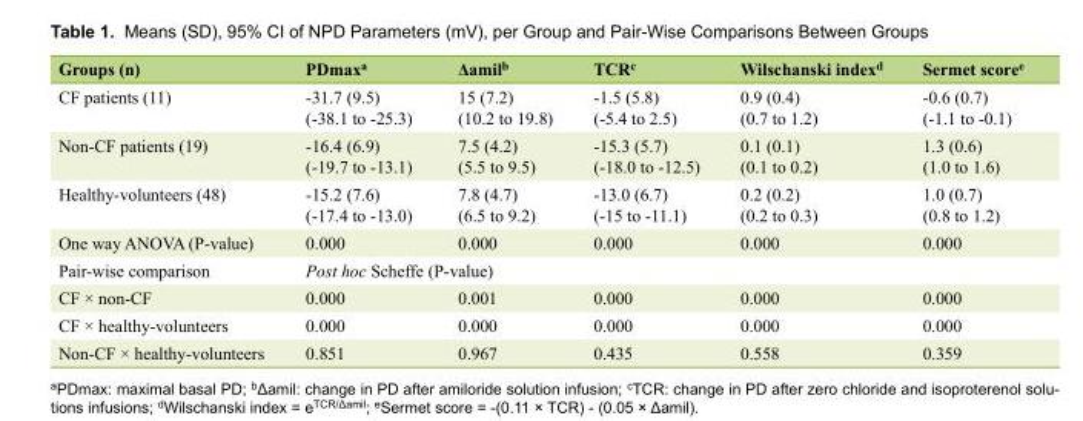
<table><thead><tr><td>Groups (n)</td><td>PDmax<sup>a</sup></td><td>Δamil<sup>b</sup></td><td>TCR<sup>c</sup></td><td>Wilschanski index<sup>d</sup></td><td>Sermet score<sup>e</sup></td></tr></thead><tbody><tr><td>CF patients (11)</td><td>-31.7 (9.5) (-38.1 to -25.3)</td><td>15 (7.2) (10.2 to 19.8)</td><td>-1.5 (5.8) (-5.4 to 2.5)</td><td>0.9 (0.4) (0.7 to 1.2)</td><td>-0.6 (0.7) (-1.1 to -0.1)</td></tr><tr><td>Non-CF patients (19)</td><td>-16.4 (6.9) (-19.7 to -13.1)</td><td>7.5 (4.2) (5.5 to 9.5)</td><td>-15.3 (5.7) (-18.0 to -12.5)</td><td>0.1 (0.1) (0.1 to 0.2)</td><td>1.3 (0.6) (1.0 to 1.6)</td></tr><tr><td>Healthy-volunteers (48)</td><td>-15.2 (7.6) (-17.4 to -13.0)</td><td>7.8 (4.7) (6.5 to 9.2)</td><td>-13.0 (6.7) (-15 to -11.1)</td><td>0.2 (0.2) (0.2 to 0.3)</td><td>1.0 (0.7) (0.8 to 1.2)</td></tr><tr><td>One way ANOVA (P-value)</td><td>0.000</td><td>0.000</td><td>0.000</td><td>0.000</td><td>0.000</td></tr><tr><td>Pair-wise comparison</td><td colspan="5">Post hoc Scheffe (P-value)</td></tr><tr><td>CF × non-CF</td><td>0.000</td><td>0.001</td><td>0.000</td><td>0.000</td><td>0.000</td></tr><tr><td>CF × healthy-volunteers</td><td>0.000</td><td>0.000</td><td>0.000</td><td>0.000</td><td>0.000</td></tr><tr><td>Non-CF × healthy-volunteers</td><td>0.851</td><td>0.967</td><td>0.435</td><td>0.558</td><td>0.359</td></tr></tbody></table>